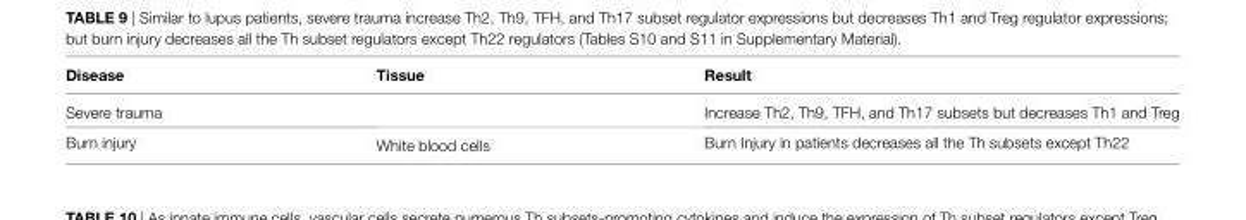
<table><thead><tr><td>Disease</td><td>Tissue</td><td>result</td></tr></thead><tbody><tr><td>Severe trauma</td><td></td><td>Increase Th2, Th9, TFH, and Th17 subsets but decreases Th1 and Treg</td></tr><tr><td>Burn injury</td><td>White blood cells</td><td>Burn Injury in patients decreases all the Th subsets except Th22</td></tr></tbody></table>